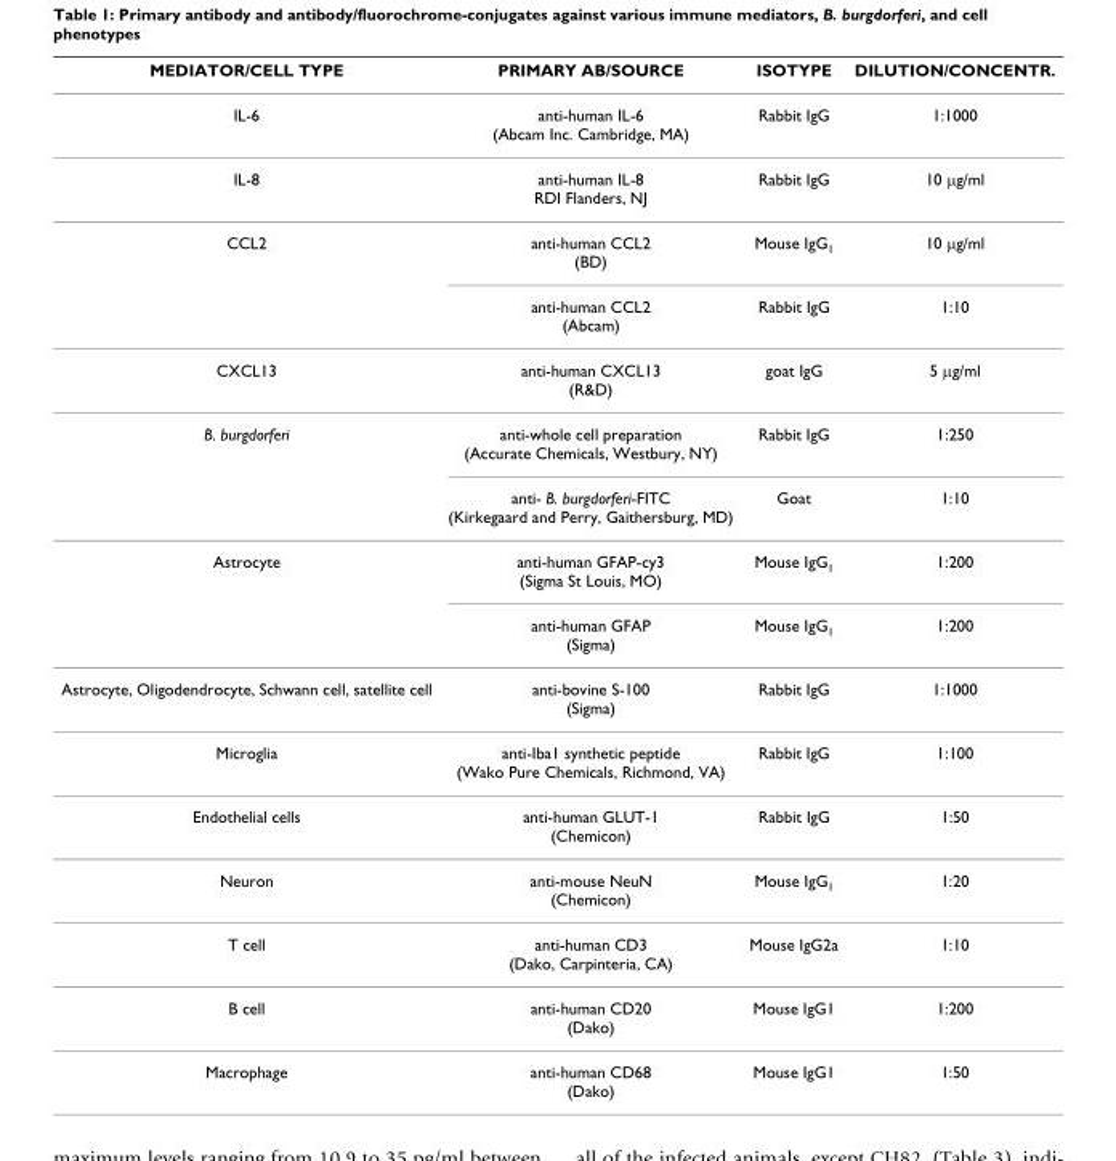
<table><thead><tr><td>MEDIATOR/CELL TYPE</td><td>PRIMARY AB/SOURCE</td><td>ISOTYPE</td><td>DILUTION/CONCENTR.</td></tr></thead><tbody><tr><td>IL-6</td><td>anti-human IL-6 (Abcam Inc. Cambridge, MA)</td><td>Rabbit IgG</td><td>1:1000</td></tr><tr><td>IL-8</td><td>anti-human IL-8 RDI Flanders, NJ</td><td>Rabbit IgG</td><td>10 μg/ml</td></tr><tr><td rowspan="2">CCL2</td><td>anti-human CCL2 (BD)</td><td>Mouse IgG<sub>1</sub></td><td>10 μg/ml</td></tr><tr><td>anti-human CCL2 (Abcam)</td><td>Rabbit IgG</td><td>1:10</td></tr><tr><td>CXCL13</td><td>anti-human CXCL13 (R&amp;D)</td><td>goat IgG</td><td>5 μg/ml</td></tr><tr><td rowspan="2">B. burgdorferi</td><td>anti-whole cell preparation (Accurate Chemicals, Westbury, NY)</td><td>Rabbit IgG</td><td>1:250</td></tr><tr><td>anti- B. burgdorferi-FITC (Kirkegaard and Perry, Gaithersburg, MD)</td><td>Goat</td><td>1:10</td></tr><tr><td rowspan="2">Astrocyte</td><td>anti-human GFAP-cy3 (Sigma St Louis, MO)</td><td>Mouse IgG<sub>1</sub></td><td>1:200</td></tr><tr><td>anti-human GFAP (Sigma)</td><td>Mouse IgG<sub>1</sub></td><td>1:200</td></tr><tr><td>Astrocyte, Oligodendrocyte, Schwann cell, satellite cell</td><td>anti-bovine S-100 (Sigma)</td><td>Rabbit IgG</td><td>1:1000</td></tr><tr><td>Microglia</td><td>anti-Iba1 synthetic peptide (Wako Pure Chemicals, Richmond, VA)</td><td>Rabbit IgG</td><td>1:100</td></tr><tr><td>Endothelial cells</td><td>anti-human GLUT-1 (Chemicon)</td><td>Rabbit IgG</td><td>1:50</td></tr><tr><td>Neuron</td><td>anti-mouse NeuN (Chemicon)</td><td>Mouse IgG<sub>1</sub></td><td>1:20</td></tr><tr><td>T cell</td><td>anti-human CD3 (Dako, Carpinteria, CA)</td><td>Mouse IgG2a</td><td>1:10</td></tr><tr><td>B cell</td><td>anti-human CD20 (Dako)</td><td>Mouse IgG1</td><td>1:200</td></tr><tr><td>Macrophage</td><td>anti-human CD68 (Dako)</td><td>Mouse IgG1</td><td>1:50</td></tr></tbody></table>